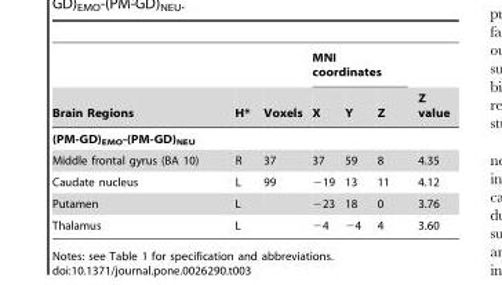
<table><thead><tr><td rowspan="2">Brain Regions</td><td rowspan="2">H*</td><td rowspan="2">Voxels</td><td colspan="3">MNI coordinates</td><td rowspan="2">Z value</td></tr><tr><td>X</td><td>Y</td><td>Z</td></tr></thead><tbody><tr><td colspan="7">(PM-GD)<sub>EMO</sub>-(PM-GD)<sub>NEU</sub></td></tr><tr><td>Middle frontal gyrus (BA 10)</td><td>R</td><td>37</td><td>37</td><td>59</td><td>8</td><td>4.35</td></tr><tr><td>Caudate nucleus</td><td>L</td><td>99</td><td>−19</td><td>13</td><td>11</td><td>4.12</td></tr><tr><td>Putamen</td><td>L</td><td></td><td>−23</td><td>18</td><td>0</td><td>3.76</td></tr><tr><td>Thalamus</td><td>L</td><td></td><td>−4</td><td>−4</td><td>4</td><td>3.60</td></tr></tbody></table>